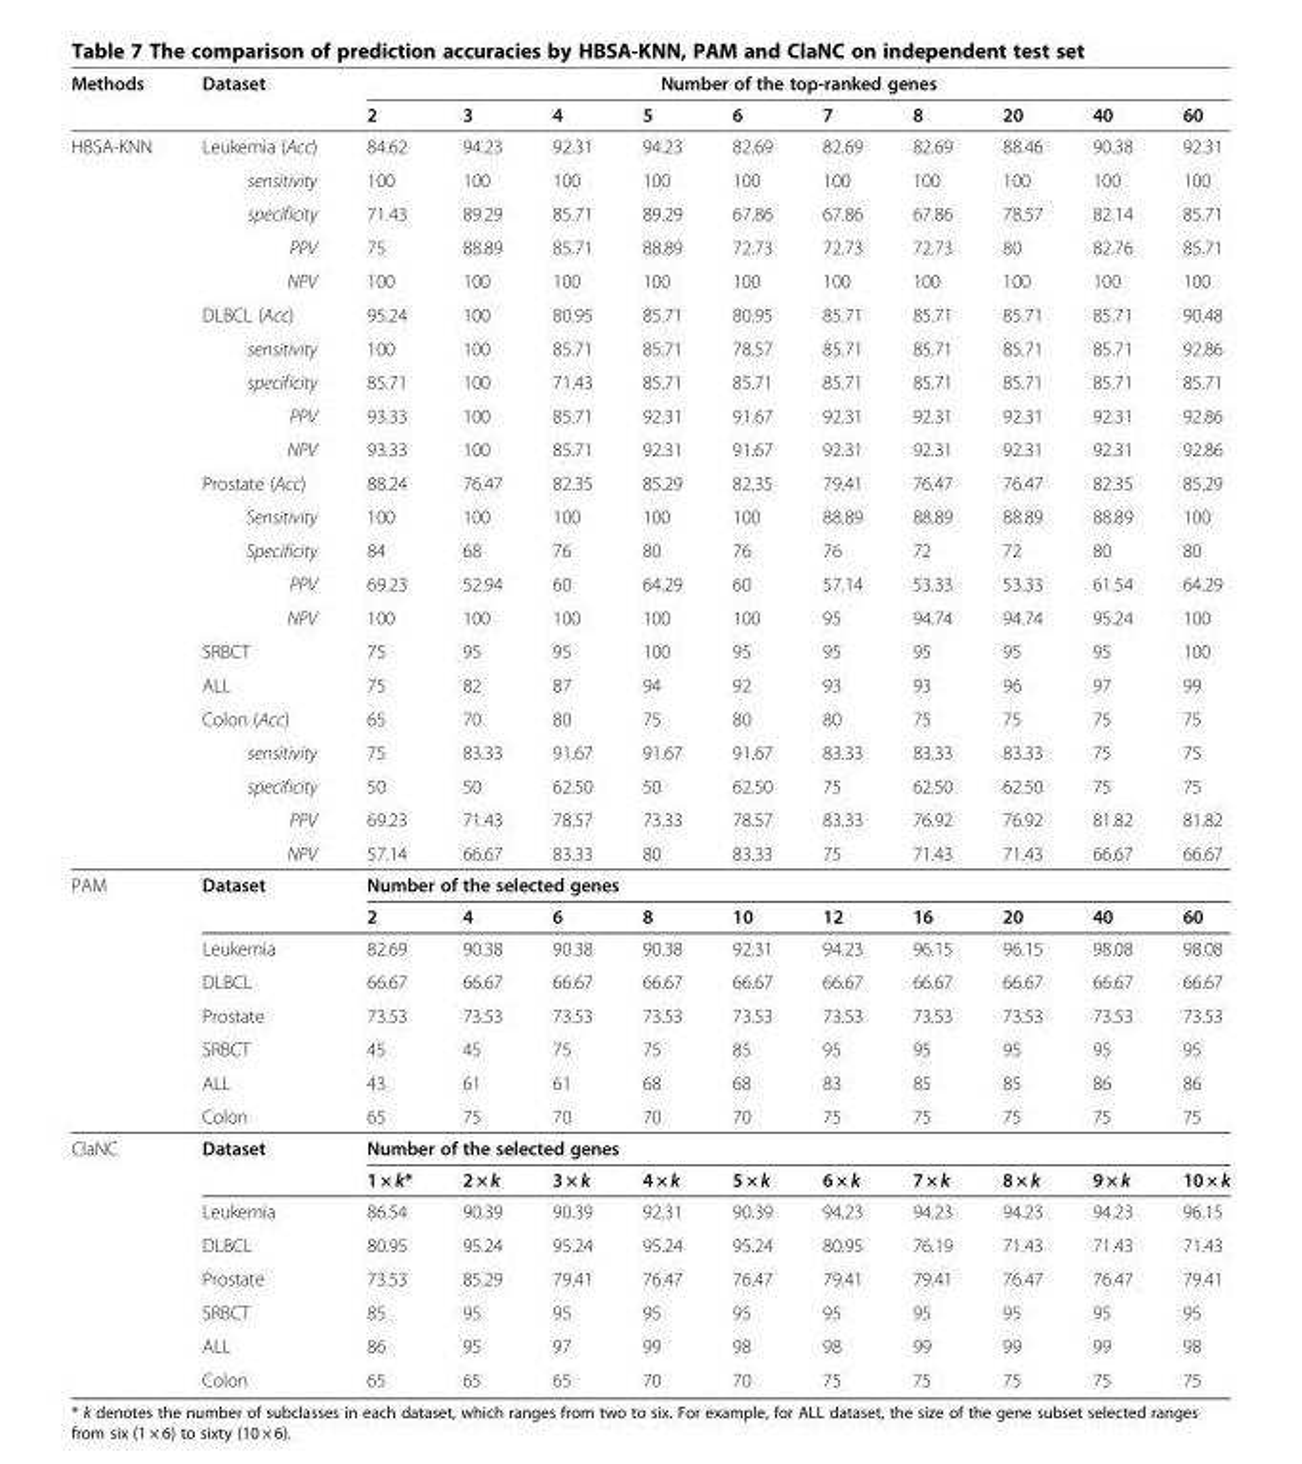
<table><thead><tr><td rowspan="2">Methods</td><td rowspan="2">Dataset</td><td colspan="10">Number of the top-ranked genes</td></tr><tr><td>2</td><td>3</td><td>4</td><td>5</td><td>6</td><td>7</td><td>8</td><td>20</td><td>40</td><td>60</td></tr></thead><tbody><tr><td rowspan="22">HBSA-KNN</td><td>Leukemia (Acc)</td><td>84.62</td><td>94.23</td><td>92.31</td><td>94.23</td><td>82.69</td><td>82.69</td><td>82.69</td><td>88.46</td><td>90.38</td><td>92.31</td></tr><tr><td>sensitivity</td><td>100</td><td>100</td><td>100</td><td>100</td><td>100</td><td>100</td><td>100</td><td>100</td><td>100</td><td>100</td></tr><tr><td>specificity</td><td>71.43</td><td>89.29</td><td>85.71</td><td>89.29</td><td>67.86</td><td>67.86</td><td>67.86</td><td>78.57</td><td>82.14</td><td>85.71</td></tr><tr><td>PPV</td><td>75</td><td>88.89</td><td>85.71</td><td>88.89</td><td>72.73</td><td>72.73</td><td>72.73</td><td>80</td><td>82.76</td><td>85.71</td></tr><tr><td>NPV</td><td>100</td><td>100</td><td>100</td><td>100</td><td>100</td><td>100</td><td>100</td><td>100</td><td>100</td><td>100</td></tr><tr><td>DLBCL (Acc)</td><td>95.24</td><td>100</td><td>80.95</td><td>85.71</td><td>80.95</td><td>85.71</td><td>85.71</td><td>85.71</td><td>85.71</td><td>90.48</td></tr><tr><td>sensitivity</td><td>100</td><td>100</td><td>85.71</td><td>85.71</td><td>78.57</td><td>85.71</td><td>85.71</td><td>85.71</td><td>85.71</td><td>92.86</td></tr><tr><td>specificity</td><td>85.71</td><td>100</td><td>71.43</td><td>85.71</td><td>85.71</td><td>85.71</td><td>85.71</td><td>85.71</td><td>85.71</td><td>85.71</td></tr><tr><td>PPV</td><td>93.33</td><td>100</td><td>85.71</td><td>92.31</td><td>91.67</td><td>92.31</td><td>92.31</td><td>92.31</td><td>92.31</td><td>92.86</td></tr><tr><td>NPV</td><td>93.33</td><td>100</td><td>85.71</td><td>92.31</td><td>91.67</td><td>92.31</td><td>92.31</td><td>92.31</td><td>92.31</td><td>92.86</td></tr><tr><td>Prostate (Acc)</td><td>88.24</td><td>76.47</td><td>82.35</td><td>85.29</td><td>82.35</td><td>79.41</td><td>76.47</td><td>76.47</td><td>82.35</td><td>85.29</td></tr><tr><td>Sensitivity</td><td>100</td><td>100</td><td>100</td><td>100</td><td>100</td><td>88.89</td><td>88.89</td><td>88.89</td><td>88.89</td><td>100</td></tr><tr><td>Specificity</td><td>84</td><td>68</td><td>76</td><td>80</td><td>76</td><td>76</td><td>72</td><td>72</td><td>80</td><td>80</td></tr><tr><td>PPV</td><td>69.23</td><td>52.94</td><td>60</td><td>64.29</td><td>60</td><td>57.14</td><td>53.33</td><td>53.33</td><td>61.54</td><td>64.29</td></tr><tr><td>NPV</td><td>100</td><td>100</td><td>100</td><td>100</td><td>100</td><td>95</td><td>94.74</td><td>94.74</td><td>95.24</td><td>100</td></tr><tr><td>SRBCT</td><td>75</td><td>95</td><td>95</td><td>100</td><td>95</td><td>95</td><td>95</td><td>95</td><td>95</td><td>100</td></tr><tr><td>ALL</td><td>75</td><td>82</td><td>87</td><td>94</td><td>92</td><td>93</td><td>93</td><td>96</td><td>97</td><td>99</td></tr><tr><td>Colon (Acc)</td><td>65</td><td>70</td><td>80</td><td>75</td><td>80</td><td>80</td><td>75</td><td>75</td><td>75</td><td>75</td></tr><tr><td>sensitivity</td><td>75</td><td>83.33</td><td>91.67</td><td>91.67</td><td>91.67</td><td>83.33</td><td>83.33</td><td>83.33</td><td>75</td><td>75</td></tr><tr><td>specificity</td><td>50</td><td>50</td><td>62.50</td><td>50</td><td>62.50</td><td>75</td><td>62.50</td><td>62.50</td><td>75</td><td>75</td></tr><tr><td>PPV</td><td>69.23</td><td>71.43</td><td>78.57</td><td>73.33</td><td>78.57</td><td>83.33</td><td>76.92</td><td>76.92</td><td>81.82</td><td>81.82</td></tr><tr><td>NPV</td><td>57.14</td><td>66.67</td><td>83.33</td><td>80</td><td>83.33</td><td>75</td><td>71.43</td><td>71.43</td><td>66.67</td><td>66.67</td></tr><tr><td rowspan="8">PAM</td><td rowspan="2">Dataset</td><td colspan="10">Number of the selected genes</td></tr><tr><td>2</td><td>4</td><td>6</td><td>8</td><td>10</td><td>12</td><td>16</td><td>20</td><td>40</td><td>60</td></tr><tr><td>Leukemia</td><td>82.69</td><td>90.38</td><td>90.38</td><td>90.38</td><td>92.31</td><td>94.23</td><td>96.15</td><td>96.15</td><td>98.08</td><td>98.08</td></tr><tr><td>DLBCL</td><td>66.67</td><td>66.67</td><td>66.67</td><td>66.67</td><td>66.67</td><td>66.67</td><td>66.67</td><td>66.67</td><td>66.67</td><td>66.67</td></tr><tr><td>Prostate</td><td>73.53</td><td>73.53</td><td>73.53</td><td>73.53</td><td>73.53</td><td>73.53</td><td>73.53</td><td>73.53</td><td>73.53</td><td>73.53</td></tr><tr><td>SRBCT</td><td>45</td><td>45</td><td>75</td><td>75</td><td>85</td><td>95</td><td>95</td><td>95</td><td>95</td><td>95</td></tr><tr><td>ALL</td><td>43</td><td>61</td><td>61</td><td>68</td><td>68</td><td>83</td><td>85</td><td>85</td><td>86</td><td>86</td></tr><tr><td>Colon</td><td>65</td><td>75</td><td>70</td><td>70</td><td>70</td><td>75</td><td>75</td><td>75</td><td>75</td><td>75</td></tr><tr><td rowspan="8">ClaNC</td><td rowspan="2">Dataset</td><td colspan="10">Number of the selected genes</td></tr><tr><td>1 × k*</td><td>2 × k</td><td>3 × k</td><td>4 × k</td><td>5 × k</td><td>6 × k</td><td>7 × k</td><td>8 × k</td><td>9 × k</td><td>10 × k</td></tr><tr><td>Leukemia</td><td>86.54</td><td>90.39</td><td>90.39</td><td>92.31</td><td>90.39</td><td>94.23</td><td>94.23</td><td>94.23</td><td>94.23</td><td>96.15</td></tr><tr><td>DLBCL</td><td>80.95</td><td>95.24</td><td>95.24</td><td>95.24</td><td>95.24</td><td>80.95</td><td>76.19</td><td>71.43</td><td>71.43</td><td>71.43</td></tr><tr><td>Prostate</td><td>73.53</td><td>85.29</td><td>79.41</td><td>76.47</td><td>76.47</td><td>79.41</td><td>79.41</td><td>76.47</td><td>76.47</td><td>79.41</td></tr><tr><td>SRBCT</td><td>85</td><td>95</td><td>95</td><td>95</td><td>95</td><td>95</td><td>95</td><td>95</td><td>95</td><td>95</td></tr><tr><td>ALL</td><td>86</td><td>95</td><td>97</td><td>99</td><td>98</td><td>98</td><td>99</td><td>99</td><td>99</td><td>98</td></tr><tr><td>Colon</td><td>65</td><td>65</td><td>65</td><td>70</td><td>70</td><td>75</td><td>75</td><td>75</td><td>75</td><td>75</td></tr></tbody></table>